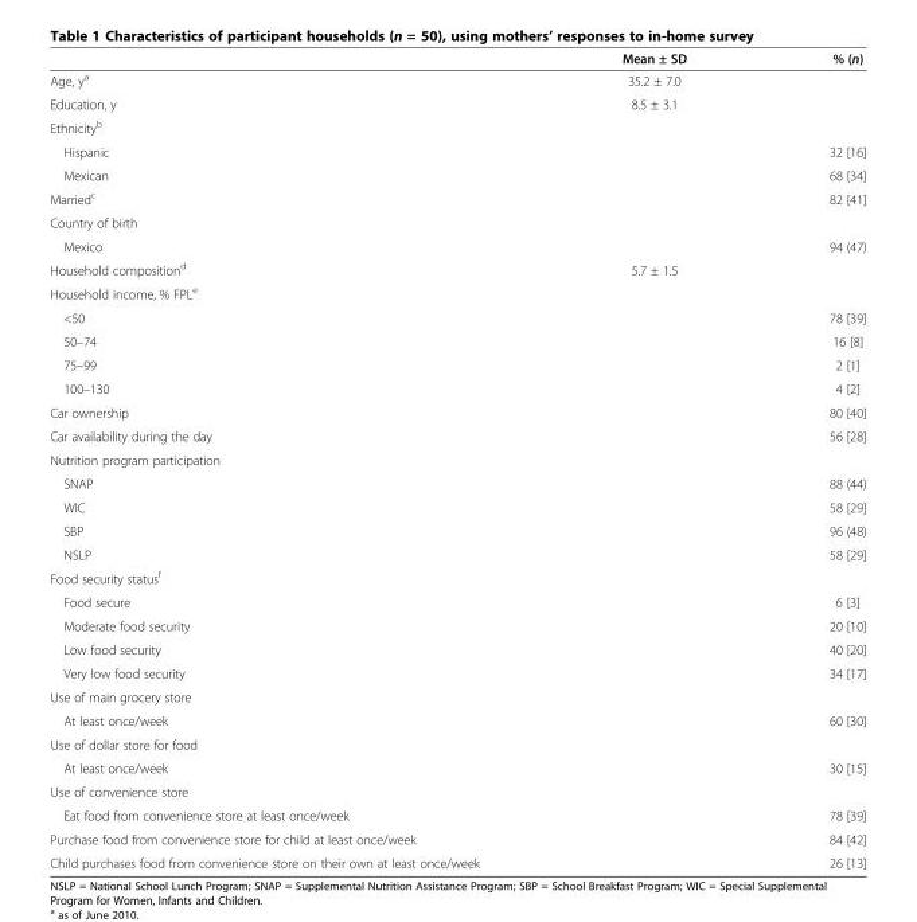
<table><thead><tr><td></td><td>Mean ± SD</td><td>% (n)</td></tr></thead><tbody><tr><td>Age, y<sup>a</sup></td><td>35.2 ± 7.0</td><td></td></tr><tr><td>Education, y</td><td>8.5 ± 3.1</td><td></td></tr><tr><td colspan="3">Ethnicity<sup>b</sup></td></tr><tr><td>Hispanic</td><td></td><td>32 [16]</td></tr><tr><td>Mexican</td><td></td><td>68 [34]</td></tr><tr><td>Married<sup>c</sup></td><td></td><td>82 [41]</td></tr><tr><td colspan="3">Country of birth</td></tr><tr><td>Mexico</td><td></td><td>94 (47)</td></tr><tr><td>Household composition<sup>d</sup></td><td>5.7 ± 1.5</td><td></td></tr><tr><td colspan="3">Household income, % FPL<sup>e</sup></td></tr><tr><td>&lt;50</td><td></td><td>78 [39]</td></tr><tr><td>50–74</td><td></td><td>16 [8]</td></tr><tr><td>75–99</td><td></td><td>2 [1]</td></tr><tr><td>100–130</td><td></td><td>4 [2]</td></tr><tr><td>Car ownership</td><td></td><td>80 [40]</td></tr><tr><td>Car availability during the day</td><td></td><td>56 [28]</td></tr><tr><td colspan="3">Nutrition program participation</td></tr><tr><td>SNAP</td><td></td><td>88 (44)</td></tr><tr><td>WIC</td><td></td><td>58 [29]</td></tr><tr><td>SBP</td><td></td><td>96 (48)</td></tr><tr><td>NSLP</td><td></td><td>58 [29]</td></tr><tr><td colspan="3">Food security status<sup>f</sup></td></tr><tr><td>Food secure</td><td></td><td>6 [3]</td></tr><tr><td>Moderate food security</td><td></td><td>20 [10]</td></tr><tr><td>Low food security</td><td></td><td>40 [20]</td></tr><tr><td>Very low food security</td><td></td><td>34 [17]</td></tr><tr><td colspan="3">Use of main grocery store</td></tr><tr><td>At least once/week</td><td></td><td>60 [30]</td></tr><tr><td colspan="3">Use of dollar store for food</td></tr><tr><td>At least once/week</td><td></td><td>30 [15]</td></tr><tr><td colspan="3">Use of convenience store</td></tr><tr><td>Eat food from convenience store at least once/week</td><td></td><td>78 [39]</td></tr><tr><td>Purchase food from convenience store for child at least once/week</td><td></td><td>84 [42]</td></tr><tr><td>Child purchases food from convenience store on their own at least once/week</td><td></td><td>26 [13]</td></tr></tbody></table>